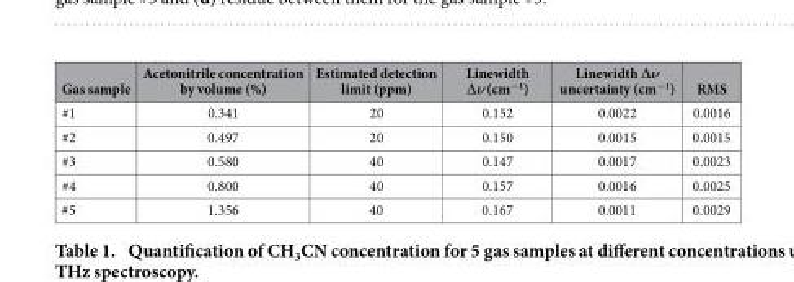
<table><thead><tr><td>Gas sample</td><td>Acetonitrile concentration by volume (%)</td><td>Estimated detection limit (ppm)</td><td>Linewidth ∆ν (cm<sup>−1</sup>)</td><td>Linewidth ∆ν uncertainty (cm<sup>−1</sup>)</td><td>RMS</td></tr></thead><tbody><tr><td>#1</td><td>0.341</td><td>20</td><td>0.152</td><td>0.0022</td><td>0.0016</td></tr><tr><td>#2</td><td>0.497</td><td>20</td><td>0.150</td><td>0.0015</td><td>0.0015</td></tr><tr><td>#3</td><td>0.580</td><td>40</td><td>0.147</td><td>0.0017</td><td>0.0023</td></tr><tr><td>#4</td><td>0.800</td><td>40</td><td>0.157</td><td>0.0016</td><td>0.0025</td></tr><tr><td>#5</td><td>1.356</td><td>40</td><td>0.167</td><td>0.0011</td><td>0.0029</td></tr></tbody></table>